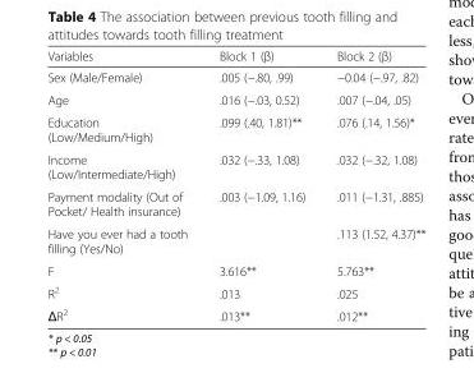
<table><thead><tr><td>Variables</td><td>Block 1 (β)</td><td>Block 2 (β)</td></tr></thead><tbody><tr><td>Sex (Male/Female)</td><td>.005 (−.80, .99)</td><td>−0.04 (−.97, .82)</td></tr><tr><td>Age</td><td>.016 (−.03, 0.52)</td><td>.007 (−.04, .05)</td></tr><tr><td>Education (Low/Medium/High)</td><td>.099 (.40, 1.81)**</td><td>.076 (.14, 1.56)*</td></tr><tr><td>Income (Low/Intermediate/High)</td><td>.032 (−.33, 1.08)</td><td>.032 (−.32, 1.08)</td></tr><tr><td>Payment modality (Out of Pocket/ Health insurance)</td><td>.003 (−1.09, 1.16)</td><td>.011 (−1.31, .885)</td></tr><tr><td>Have you ever had a tooth filling (Yes/No)</td><td></td><td>.113 (1.52, 4.37)**</td></tr><tr><td>F</td><td>3.616**</td><td>5.763**</td></tr><tr><td>R<sup>2</sup></td><td>.013</td><td>.025</td></tr><tr><td>ΔR<sup>2</sup></td><td>.013**</td><td>.012**</td></tr></tbody></table>